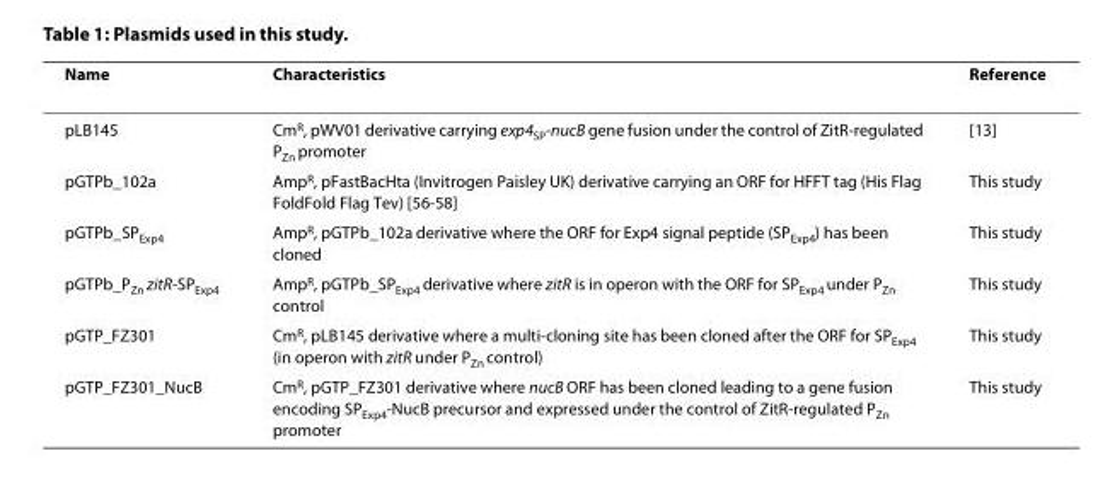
<table><thead><tr><td>Name</td><td>Characteristics</td><td>Reference</td></tr></thead><tbody><tr><td>pLB145</td><td>Cm<sup>R</sup>, pWV01 derivative carrying exp4<sub>SP</sub>-nucB gene fusion under the control of ZitR-regulated P<sub>Zn</sub> promoter</td><td>[13]</td></tr><tr><td>pGTPb_102a</td><td>Amp<sup>R</sup>, pFastBacHta (Invitrogen Paisley UK) derivative carrying an ORF for HFFT tag (His Flag FoldFold Flag Tev) [56-58]</td><td>This study</td></tr><tr><td>pGTPb_SP<sub>Exp4</sub></td><td>Amp<sup>R</sup>, pGTPb_102a derivative where the ORF for Exp4 signal peptide (SP<sub>Exp4</sub>) has been cloned</td><td>This study</td></tr><tr><td>pGTPb_P<sub>Zn</sub> zitR-SP<sub>Exp4</sub></td><td>Amp<sup>R</sup>, pGTPb_SP<sub>Exp4</sub> derivative where zitR is in operon with the ORF for SP<sub>Exp4</sub> under P<sub>Zn</sub> control</td><td>This study</td></tr><tr><td>pGTP_FZ301</td><td>Cm<sup>R</sup>, pLB145 derivative where a multi-cloning site has been cloned after the ORF for SP<sub>Exp4</sub> (in operon with zitR under P<sub>Zn</sub> control)</td><td>This study</td></tr><tr><td>pGTP_FZ301_NucB</td><td>Cm<sup>R</sup>, pGTP_FZ301 derivative where nucB ORF has been cloned leading to a gene fusion encoding SP<sub>Exp4</sub>-NucB precursor and expressed under the control of ZitR-regulated P<sub>Zn</sub> promoter</td><td>This study</td></tr></tbody></table>